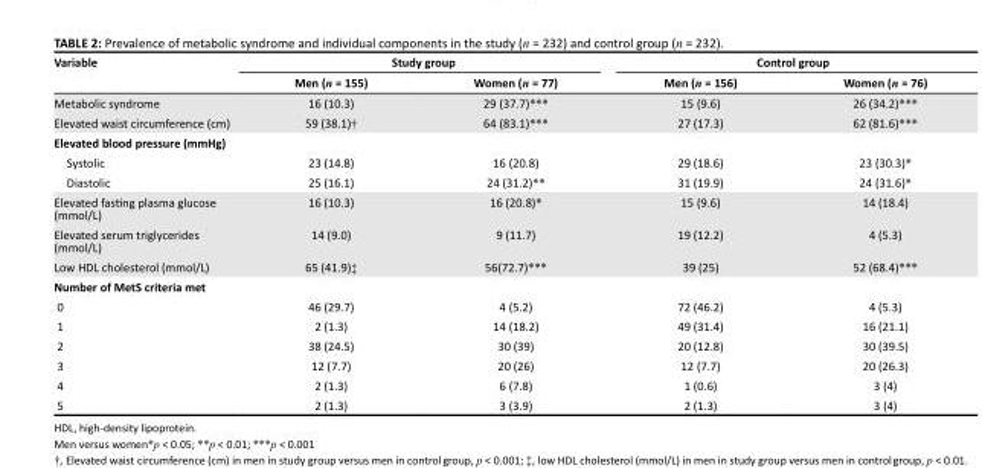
<table><thead><tr><td rowspan="2">Variable</td><td colspan="2">Study group</td><td colspan="2">Control group</td></tr><tr><td>Men (n = 155)</td><td>Women (n = 77)</td><td>Men (n = 156)</td><td>Women (n = 76)</td></tr></thead><tbody><tr><td>Metabolic syndrome</td><td>16 (10.3)</td><td>29 (37.7)***</td><td>15 (9.6)</td><td>26 (34.2)***</td></tr><tr><td>Elevated waist circumference (cm)</td><td>59 (38.1)†</td><td>64 (83.1)***</td><td>27 (17.3)</td><td>62 (81.6)***</td></tr><tr><td colspan="5">Elevated blood pressure (mmHg)</td></tr><tr><td>Systolic</td><td>23 (14.8)</td><td>16 (20.8)</td><td>29 (18.6)</td><td>23 (30.3)*</td></tr><tr><td>Diastolic</td><td>25 (16.1)</td><td>24 (31.2)**</td><td>31 (19.9)</td><td>24 (31.6)*</td></tr><tr><td>Elevated fasting plasma glucose (mmol/L)</td><td>16 (10.3)</td><td>16 (20.8)*</td><td>15 (9.6)</td><td>14 (18.4)</td></tr><tr><td>Elevated serum triglycerides (mmol/L)</td><td>14 (9.0)</td><td>9 (11.7)</td><td>19 (12.2)</td><td>4 (5.3)</td></tr><tr><td>Low HDL cholesterol (mmol/L)</td><td>65 (41.9)‡</td><td>56(72.7)***</td><td>39 (25)</td><td>52 (68.4)***</td></tr><tr><td colspan="5">Number of MetS criteria met</td></tr><tr><td>0</td><td>46 (29.7)</td><td>4 (5.2)</td><td>72 (46.2)</td><td>4 (5.3)</td></tr><tr><td>1</td><td>2 (1.3)</td><td>14 (18.2)</td><td>49 (31.4)</td><td>16 (21.1)</td></tr><tr><td>2</td><td>38 (24.5)</td><td>30 (39)</td><td>20 (12.8)</td><td>30 (39.5)</td></tr><tr><td>3</td><td>12 (7.7)</td><td>20 (26)</td><td>12 (7.7)</td><td>20 (26.3)</td></tr><tr><td>4</td><td>2 (1.3)</td><td>6 (7.8)</td><td>1 (0.6)</td><td>3 (4)</td></tr><tr><td>5</td><td>2 (1.3)</td><td>3 (3.9)</td><td>2 (1.3)</td><td>3 (4)</td></tr></tbody></table>